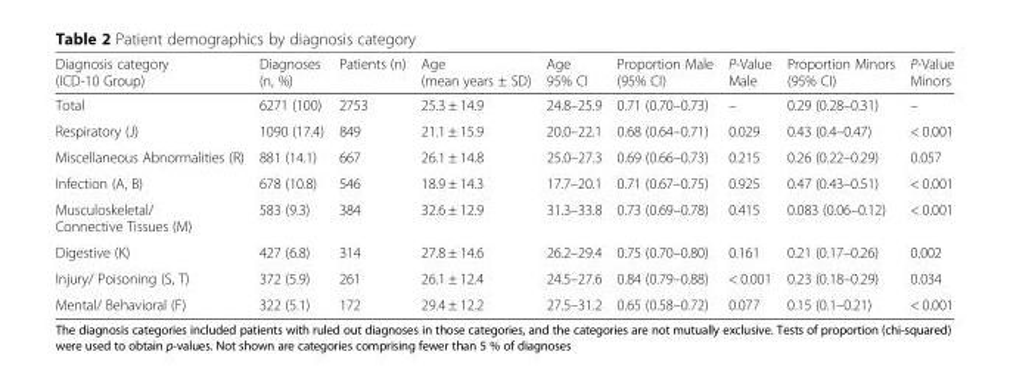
<table><thead><tr><td>Diagnosis category (ICD-10 Group)</td><td>Diagnoses (n, %)</td><td>Patients (n)</td><td>Age (mean years ± SD)</td><td>Age 95% CI</td><td>Proportion Male (95% CI)</td><td>P-Value Male</td><td>Proportion Minors (95% CI)</td><td>P-Value Minors</td></tr></thead><tbody><tr><td>Total</td><td>6271 (100)</td><td>2753</td><td>25.3 ± 14.9</td><td>24.8–25.9</td><td>0.71 (0.70–0.73)</td><td>–</td><td>0.29 (0.28–0.31)</td><td>–</td></tr><tr><td>Respiratory (J)</td><td>1090 (17.4)</td><td>849</td><td>21.1 ± 15.9</td><td>20.0–22.1</td><td>0.68 (0.64–0.71)</td><td>0.029</td><td>0.43 (0.4–0.47)</td><td>&lt; 0.001</td></tr><tr><td>Miscellaneous Abnormalities (R)</td><td>881 (14.1)</td><td>667</td><td>26.1 ± 14.8</td><td>25.0–27.3</td><td>0.69 (0.66–0.73)</td><td>0.215</td><td>0.26 (0.22–0.29)</td><td>0.057</td></tr><tr><td>Infection (A, B)</td><td>678 (10.8)</td><td>546</td><td>18.9 ± 14.3</td><td>17.7–20.1</td><td>0.71 (0.67–0.75)</td><td>0.925</td><td>0.47 (0.43–0.51)</td><td>&lt; 0.001</td></tr><tr><td>Musculoskeletal/ Connective Tissues (M)</td><td>583 (9.3)</td><td>384</td><td>32.6 ± 12.9</td><td>31.3–33.8</td><td>0.73 (0.69–0.78)</td><td>0.415</td><td>0.083 (0.06–0.12)</td><td>&lt; 0.001</td></tr><tr><td>Digestive (K)</td><td>427 (6.8)</td><td>314</td><td>27.8 ± 14.6</td><td>26.2–29.4</td><td>0.75 (0.70–0.80)</td><td>0.161</td><td>0.21 (0.17–0.26)</td><td>0.002</td></tr><tr><td>Injury/ Poisoning (S, T)</td><td>372 (5.9)</td><td>261</td><td>26.1 ± 12.4</td><td>24.5–27.6</td><td>0.84 (0.79–0.88)</td><td>&lt; 0.001</td><td>0.23 (0.18–0.29)</td><td>0.034</td></tr><tr><td>Mental/ Behavioral (F)</td><td>322 (5.1)</td><td>172</td><td>29.4 ± 12.2</td><td>27.5–31.2</td><td>0.65 (0.58–0.72)</td><td>0.077</td><td>0.15 (0.1–0.21)</td><td>&lt; 0.001</td></tr></tbody></table>